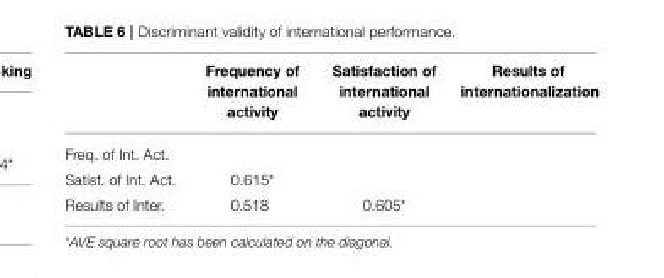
<table><thead><tr><td></td><td>Frequency of international activity</td><td>Satisfaction of international activity</td><td>Results of internationalization</td></tr></thead><tbody><tr><td colspan="4">Freq. of Int. Act.</td></tr><tr><td>Satisf. of Int. Act.</td><td>0.615*</td><td></td><td></td></tr><tr><td>Results of Inter.</td><td>0.518</td><td>0.605*</td><td></td></tr></tbody></table>